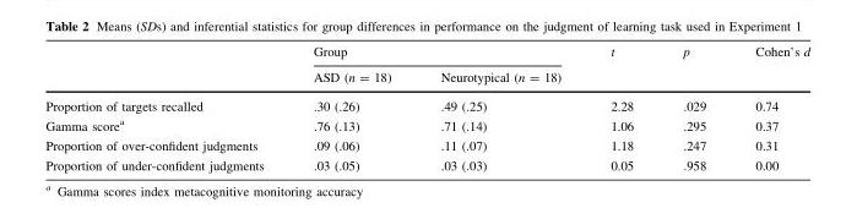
<table><thead><tr><td rowspan="2"></td><td colspan="2">Group</td><td rowspan="2">t</td><td rowspan="2">p</td><td rowspan="2">Cohen’s d</td></tr><tr><td>ASD (n = 18)</td><td>Neurotypical (n = 18)</td></tr></thead><tbody><tr><td>Proportion of targets recalled</td><td>.30 (.26)</td><td>.49 (.25)</td><td>2.28</td><td>.029</td><td>0.74</td></tr><tr><td>Gamma score<sup>a</sup></td><td>.76 (.13)</td><td>.71 (.14)</td><td>1.06</td><td>.295</td><td>0.37</td></tr><tr><td>Proportion of over-confident judgments</td><td>.09 (.06)</td><td>.11 (.07)</td><td>1.18</td><td>.247</td><td>0.31</td></tr><tr><td>Proportion of under-confident judgments</td><td>.03 (.05)</td><td>.03 (.03)</td><td>0.05</td><td>.958</td><td>0.00</td></tr></tbody></table>